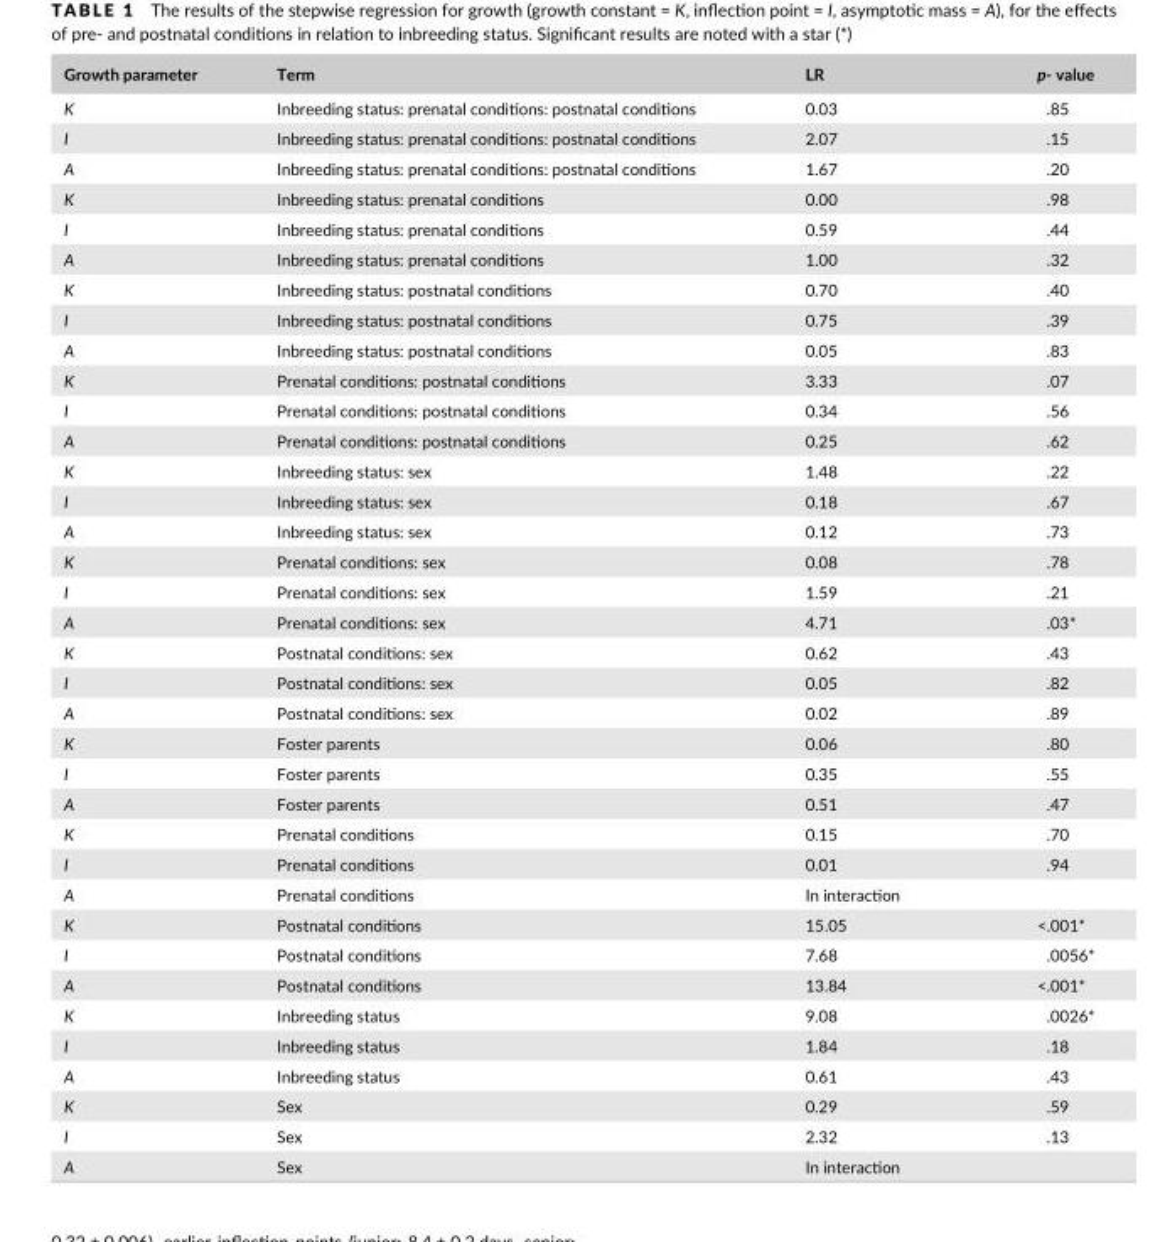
<table><thead><tr><td>Growth parameter</td><td>Term</td><td>LR</td><td>p- value</td></tr></thead><tbody><tr><td>K</td><td>Inbreeding status: prenatal conditions: postnatal conditions</td><td>0.03</td><td>.85</td></tr><tr><td>I</td><td>Inbreeding status: prenatal conditions: postnatal conditions</td><td>2.07</td><td>.15</td></tr><tr><td>A</td><td>Inbreeding status: prenatal conditions: postnatal conditions</td><td>1.67</td><td>.20</td></tr><tr><td>K</td><td>Inbreeding status: prenatal conditions</td><td>0.00</td><td>.98</td></tr><tr><td>I</td><td>Inbreeding status: prenatal conditions</td><td>0.59</td><td>.44</td></tr><tr><td>A</td><td>Inbreeding status: prenatal conditions</td><td>1.00</td><td>.32</td></tr><tr><td>K</td><td>Inbreeding status: postnatal conditions</td><td>0.70</td><td>.40</td></tr><tr><td>I</td><td>Inbreeding status: postnatal conditions</td><td>0.75</td><td>.39</td></tr><tr><td>A</td><td>Inbreeding status: postnatal conditions</td><td>0.05</td><td>.83</td></tr><tr><td>K</td><td>Prenatal conditions: postnatal conditions</td><td>3.33</td><td>.07</td></tr><tr><td>I</td><td>Prenatal conditions: postnatal conditions</td><td>0.34</td><td>.56</td></tr><tr><td>A</td><td>Prenatal conditions: postnatal conditions</td><td>0.25</td><td>.62</td></tr><tr><td>K</td><td>Inbreeding status: sex</td><td>1.48</td><td>.22</td></tr><tr><td>I</td><td>Inbreeding status: sex</td><td>0.18</td><td>.67</td></tr><tr><td>A</td><td>Inbreeding status: sex</td><td>0.12</td><td>.73</td></tr><tr><td>K</td><td>Prenatal conditions: sex</td><td>0.08</td><td>.78</td></tr><tr><td>I</td><td>Prenatal conditions: sex</td><td>1.59</td><td>.21</td></tr><tr><td>A</td><td>Prenatal conditions: sex</td><td>4.71</td><td>.03*</td></tr><tr><td>K</td><td>Postnatal conditions: sex</td><td>0.62</td><td>.43</td></tr><tr><td>I</td><td>Postnatal conditions: sex</td><td>0.05</td><td>.82</td></tr><tr><td>A</td><td>Postnatal conditions: sex</td><td>0.02</td><td>.89</td></tr><tr><td>K</td><td>Foster parents</td><td>0.06</td><td>.80</td></tr><tr><td>I</td><td>Foster parents</td><td>0.35</td><td>.55</td></tr><tr><td>A</td><td>Foster parents</td><td>0.51</td><td>.47</td></tr><tr><td>K</td><td>Prenatal conditions</td><td>0.15</td><td>.70</td></tr><tr><td>I</td><td>Prenatal conditions</td><td>0.01</td><td>.94</td></tr><tr><td>A</td><td>Prenatal conditions</td><td colspan="2">In interaction</td></tr><tr><td>K</td><td>Postnatal conditions</td><td>15.05</td><td>&lt;.001*</td></tr><tr><td>I</td><td>Postnatal conditions</td><td>7.68</td><td>.0056*</td></tr><tr><td>A</td><td>Postnatal conditions</td><td>13.84</td><td>&lt;.001*</td></tr><tr><td>K</td><td>Inbreeding status</td><td>9.08</td><td>.0026*</td></tr><tr><td>I</td><td>Inbreeding status</td><td>1.84</td><td>.18</td></tr><tr><td>A</td><td>Inbreeding status</td><td>0.61</td><td>.43</td></tr><tr><td>K</td><td>Sex</td><td>0.29</td><td>.59</td></tr><tr><td>I</td><td>Sex</td><td>2.32</td><td>.13</td></tr><tr><td>A</td><td>Sex</td><td colspan="2">In interaction</td></tr></tbody></table>